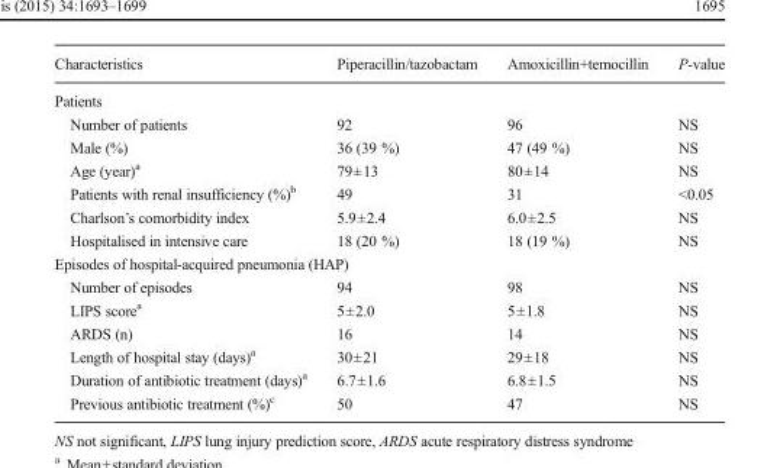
<table><thead><tr><td>Characteristics</td><td>Piperacillin/tazobactam</td><td>Amoxicillin+temocillin</td><td>P-value</td></tr></thead><tbody><tr><td colspan="4">Patients</td></tr><tr><td>Number of patients</td><td>92</td><td>96</td><td>NS</td></tr><tr><td>Male (%)</td><td>36 (39 %)</td><td>47 (49 %)</td><td>NS</td></tr><tr><td>Age (year)<sup>a</sup></td><td>79±13</td><td>80±14</td><td>NS</td></tr><tr><td>Patients with renal insufficiency (%)<sup>b</sup></td><td>49</td><td>31</td><td>&lt;0.05</td></tr><tr><td>Charlson’s comorbidity index</td><td>5.9±2.4</td><td>6.0±2.5</td><td>NS</td></tr><tr><td>Hospitalised in intensive care</td><td>18 (20 %)</td><td>18 (19 %)</td><td>NS</td></tr><tr><td colspan="4">Episodes of hospital-acquired pneumonia (HAP)</td></tr><tr><td>Number of episodes</td><td>94</td><td>98</td><td>NS</td></tr><tr><td>LIPS score<sup>a</sup></td><td>5±2.0</td><td>5±1.8</td><td>NS</td></tr><tr><td>ARDS (n)</td><td>16</td><td>14</td><td>NS</td></tr><tr><td>Length of hospital stay (days)<sup>a</sup></td><td>30±21</td><td>29±18</td><td>NS</td></tr><tr><td>Duration of antibiotic treatment (days)<sup>a</sup></td><td>6.7±1.6</td><td>6.8±1.5</td><td>NS</td></tr><tr><td>Previous antibiotic treatment (%)<sup>c</sup></td><td>50</td><td>47</td><td>NS</td></tr></tbody></table>